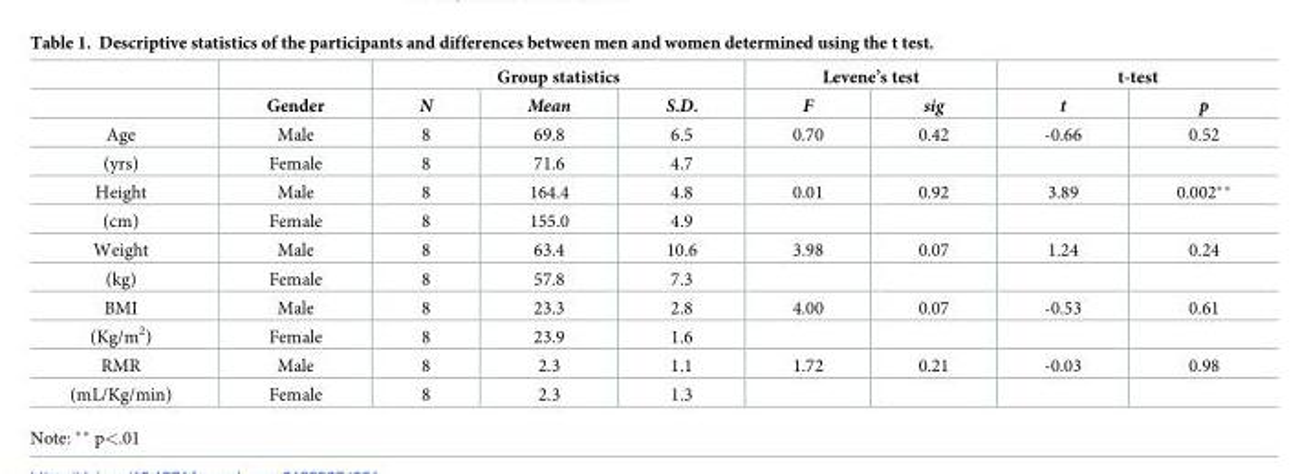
<table><thead><tr><td rowspan="2"></td><td rowspan="2">Gender</td><td colspan="3">Group statistics</td><td colspan="2">Levene’s test</td><td colspan="2">t-test</td></tr><tr><td>N</td><td>Mean</td><td>S.D.</td><td>F</td><td>sig</td><td>t</td><td>p</td></tr></thead><tbody><tr><td>Age</td><td>Male</td><td>8</td><td>69.8</td><td>6.5</td><td>0.70</td><td>0.42</td><td>-0.66</td><td>0.52</td></tr><tr><td>(yrs)</td><td>Female</td><td>8</td><td>71.6</td><td>4.7</td><td></td><td></td><td></td><td></td></tr><tr><td>Height</td><td>Male</td><td>8</td><td>164.4</td><td>4.8</td><td>0.01</td><td>0.92</td><td>3.89</td><td>0.002**</td></tr><tr><td>(cm)</td><td>Female</td><td>8</td><td>155.0</td><td>4.9</td><td></td><td></td><td></td><td></td></tr><tr><td>Weight</td><td>Male</td><td>8</td><td>63.4</td><td>10.6</td><td>3.98</td><td>0.07</td><td>1.24</td><td>0.24</td></tr><tr><td>(kg)</td><td>Female</td><td>8</td><td>57.8</td><td>7.3</td><td></td><td></td><td></td><td></td></tr><tr><td>BMI</td><td>Male</td><td>8</td><td>23.3</td><td>2.8</td><td>4.00</td><td>0.07</td><td>-0.53</td><td>0.61</td></tr><tr><td>(Kg/m<sup>2</sup>)</td><td>Female</td><td>8</td><td>23.9</td><td>1.6</td><td></td><td></td><td></td><td></td></tr><tr><td>RMR</td><td>Male</td><td>8</td><td>2.3</td><td>1.1</td><td>1.72</td><td>0.21</td><td>-0.03</td><td>0.98</td></tr><tr><td>(mL/Kg/min)</td><td>Female</td><td>8</td><td>2.3</td><td>1.3</td><td></td><td></td><td></td><td></td></tr></tbody></table>